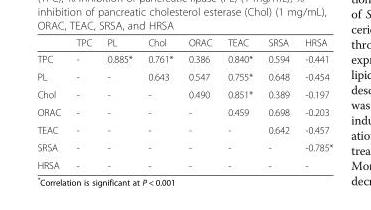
<table><thead><tr><td></td><td>TPC</td><td>PL</td><td>Chol</td><td>ORAC</td><td>TEAC</td><td>SRSA</td><td>HRSA</td></tr></thead><tbody><tr><td>TPC</td><td>-</td><td>0.885*</td><td>0.761*</td><td>0.386</td><td>0.840*</td><td>0.594</td><td>-0.441</td></tr><tr><td>PL</td><td>-</td><td>-</td><td>0.643</td><td>0.547</td><td>0.755*</td><td>0.648</td><td>-0.454</td></tr><tr><td>Chol</td><td>-</td><td>-</td><td>-</td><td>0.490</td><td>0.851*</td><td>0.389</td><td>-0.197</td></tr><tr><td>ORAC</td><td>-</td><td>-</td><td>-</td><td>-</td><td>0.459</td><td>0.698</td><td>-0.203</td></tr><tr><td>TEAC</td><td>-</td><td>-</td><td>-</td><td>-</td><td>-</td><td>0.642</td><td>-0.457</td></tr><tr><td>SRSA</td><td>-</td><td>-</td><td>-</td><td>-</td><td>-</td><td>-</td><td>-0.785*</td></tr><tr><td>HRSA</td><td>-</td><td>-</td><td>-</td><td>-</td><td>-</td><td>-</td><td>-</td></tr></tbody></table>